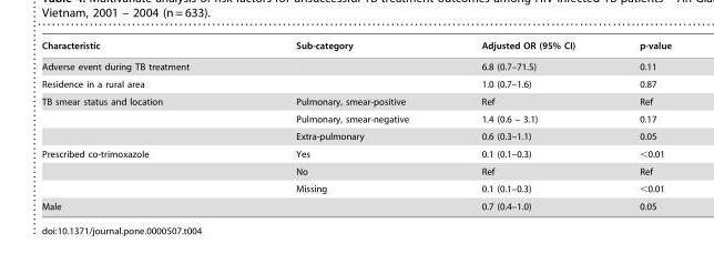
<table><thead><tr><td>Characteristic</td><td>Sub-category</td><td>Adjusted OR (95% CI)</td><td>p-value</td></tr></thead><tbody><tr><td>Adverse event during TB treatment</td><td></td><td>6.8 (0.7–71.5)</td><td>0.11</td></tr><tr><td>Residence in a rural area</td><td></td><td>1.0 (0.7–1.6)</td><td>0.87</td></tr><tr><td rowspan="3">TB smear status and location</td><td>Pulmonary, smear-positive</td><td>Ref</td><td>Ref</td></tr><tr><td>Pulmonary, smear-negative</td><td>1.4 (0.6 – 3.1)</td><td>0.17</td></tr><tr><td>Extra-pulmonary</td><td>0.6 (0.3–1.1)</td><td>0.05</td></tr><tr><td rowspan="3">Prescribed co-trimoxazole</td><td>Yes</td><td>0.1 (0.1–0.3)</td><td>&lt;0.01</td></tr><tr><td>No</td><td>Ref</td><td>Ref</td></tr><tr><td>Missing</td><td>0.1 (0.1–0.3)</td><td>&lt;0.01</td></tr><tr><td>Male</td><td></td><td>0.7 (0.4–1.0)</td><td>0.05</td></tr></tbody></table>